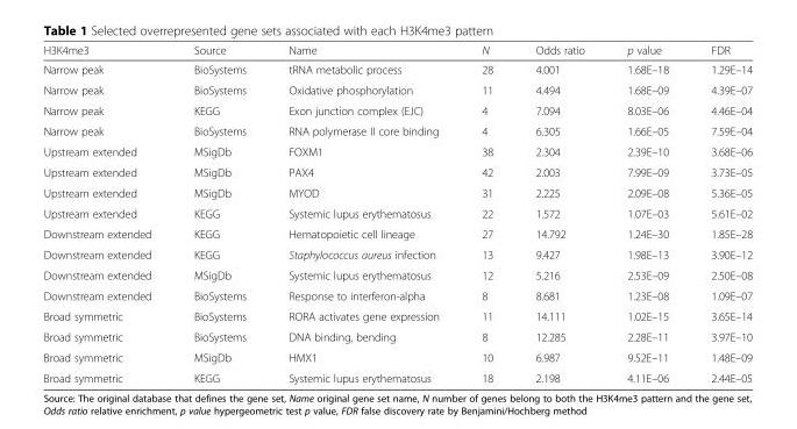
<table><thead><tr><td>H3K4me3</td><td>Source</td><td>Name</td><td>N</td><td>Odds ratio</td><td>p value</td><td>FDR</td></tr></thead><tbody><tr><td>Narrow peak</td><td>BioSystems</td><td>tRNA metabolic process</td><td>28</td><td>4.001</td><td>1.68E–18</td><td>1.29E–14</td></tr><tr><td>Narrow peak</td><td>BioSystems</td><td>Oxidative phosphorylation</td><td>11</td><td>4.494</td><td>1.68E–09</td><td>4.39E–07</td></tr><tr><td>Narrow peak</td><td>KEGG</td><td>Exon junction complex (EJC)</td><td>4</td><td>7.094</td><td>8.03E–06</td><td>4.46E–04</td></tr><tr><td>Narrow peak</td><td>BioSystems</td><td>RNA polymerase II core binding</td><td>4</td><td>6.305</td><td>1.66E–05</td><td>7.59E–04</td></tr><tr><td>Upstream extended</td><td>MSigDb</td><td>FOXM1</td><td>38</td><td>2.304</td><td>2.39E–10</td><td>3.68E–06</td></tr><tr><td>Upstream extended</td><td>MSigDb</td><td>PAX4</td><td>42</td><td>2.003</td><td>7.99E–09</td><td>3.73E–05</td></tr><tr><td>Upstream extended</td><td>MSigDb</td><td>MYOD</td><td>31</td><td>2.225</td><td>2.09E–08</td><td>5.36E–05</td></tr><tr><td>Upstream extended</td><td>KEGG</td><td>Systemic lupus erythematosus</td><td>22</td><td>1.572</td><td>1.07E–03</td><td>5.61E–02</td></tr><tr><td>Downstream extended</td><td>KEGG</td><td>Hematopoietic cell lineage</td><td>27</td><td>14.792</td><td>1.24E–30</td><td>1.85E–28</td></tr><tr><td>Downstream extended</td><td>KEGG</td><td>Staphylococcus aureus infection</td><td>13</td><td>9.427</td><td>1.98E–13</td><td>3.90E–12</td></tr><tr><td>Downstream extended</td><td>MSigDb</td><td>Systemic lupus erythematosus</td><td>12</td><td>5.216</td><td>2.53E–09</td><td>2.50E–08</td></tr><tr><td>Downstream extended</td><td>BioSystems</td><td>Response to interferon-alpha</td><td>8</td><td>8.681</td><td>1.23E–08</td><td>1.09E–07</td></tr><tr><td>Broad symmetric</td><td>BioSystems</td><td>RORA activates gene expression</td><td>11</td><td>14.111</td><td>1.02E–15</td><td>3.65E–14</td></tr><tr><td>Broad symmetric</td><td>BioSystems</td><td>DNA binding, bending</td><td>8</td><td>12.285</td><td>2.28E–11</td><td>3.97E–10</td></tr><tr><td>Broad symmetric</td><td>MSigDb</td><td>HMX1</td><td>10</td><td>6.987</td><td>9.52E–11</td><td>1.48E–09</td></tr><tr><td>Broad symmetric</td><td>KEGG</td><td>Systemic lupus erythematosus</td><td>18</td><td>2.198</td><td>4.11E–06</td><td>2.44E–05</td></tr></tbody></table>